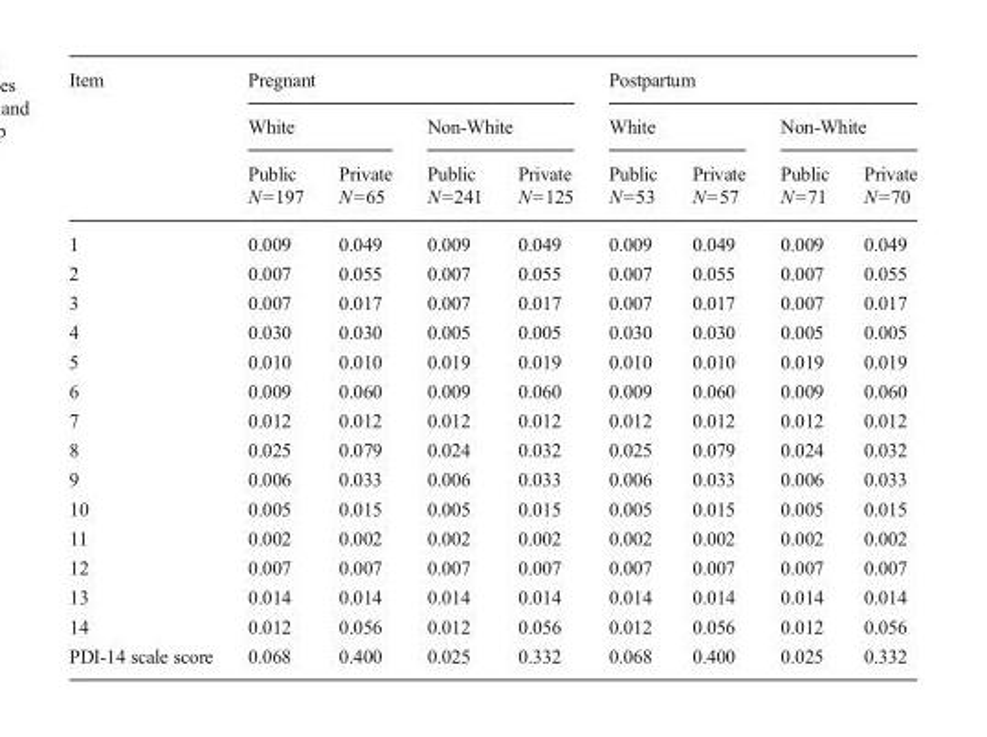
<table><thead><tr><td rowspan="4">Item</td><td colspan="4">Pregnant</td><td colspan="4">Postpartum</td></tr><tr><td colspan="2">White</td><td colspan="2">Non-White</td><td colspan="2">White</td><td colspan="2">Non-White</td></tr><tr><td rowspan="2">Public N=197</td><td rowspan="2">Private N=65</td><td rowspan="2">Public N=241</td><td rowspan="2">Private N=125</td><td rowspan="2">Public N=53</td><td rowspan="2">Private N=57</td><td rowspan="2">Public N=71</td><td rowspan="2">Private N=70</td></tr><tr></tr></thead><tbody><tr><td>1</td><td>0.009</td><td>0.049</td><td>0.009</td><td>0.049</td><td>0.009</td><td>0.049</td><td>0.009</td><td>0.049</td></tr><tr><td>2</td><td>0.007</td><td>0.055</td><td>0.007</td><td>0.055</td><td>0.007</td><td>0.055</td><td>0.007</td><td>0.055</td></tr><tr><td>3</td><td>0.007</td><td>0.017</td><td>0.007</td><td>0.017</td><td>0.007</td><td>0.017</td><td>0.007</td><td>0.017</td></tr><tr><td>4</td><td>0.030</td><td>0.030</td><td>0.005</td><td>0.005</td><td>0.030</td><td>0.030</td><td>0.005</td><td>0.005</td></tr><tr><td>5</td><td>0.010</td><td>0.010</td><td>0.019</td><td>0.019</td><td>0.010</td><td>0.010</td><td>0.019</td><td>0.019</td></tr><tr><td>6</td><td>0.009</td><td>0.060</td><td>0.009</td><td>0.060</td><td>0.009</td><td>0.060</td><td>0.009</td><td>0.060</td></tr><tr><td>7</td><td>0.012</td><td>0.012</td><td>0.012</td><td>0.012</td><td>0.012</td><td>0.012</td><td>0.012</td><td>0.012</td></tr><tr><td>8</td><td>0.025</td><td>0.079</td><td>0.024</td><td>0.032</td><td>0.025</td><td>0.079</td><td>0.024</td><td>0.032</td></tr><tr><td>9</td><td>0.006</td><td>0.033</td><td>0.006</td><td>0.033</td><td>0.006</td><td>0.033</td><td>0.006</td><td>0.033</td></tr><tr><td>10</td><td>0.005</td><td>0.015</td><td>0.005</td><td>0.015</td><td>0.005</td><td>0.015</td><td>0.005</td><td>0.015</td></tr><tr><td>11</td><td>0.002</td><td>0.002</td><td>0.002</td><td>0.002</td><td>0.002</td><td>0.002</td><td>0.002</td><td>0.002</td></tr><tr><td>12</td><td>0.007</td><td>0.007</td><td>0.007</td><td>0.007</td><td>0.007</td><td>0.007</td><td>0.007</td><td>0.007</td></tr><tr><td>13</td><td>0.014</td><td>0.014</td><td>0.014</td><td>0.014</td><td>0.014</td><td>0.014</td><td>0.014</td><td>0.014</td></tr><tr><td>14</td><td>0.012</td><td>0.056</td><td>0.012</td><td>0.056</td><td>0.012</td><td>0.056</td><td>0.012</td><td>0.056</td></tr><tr><td>PDI-14 scale score</td><td>0.068</td><td>0.400</td><td>0.025</td><td>0.332</td><td>0.068</td><td>0.400</td><td>0.025</td><td>0.332</td></tr></tbody></table>